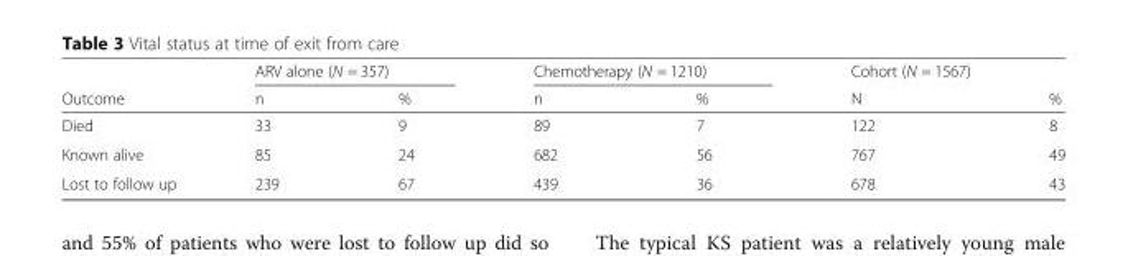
<table><thead><tr><td rowspan="2">Outcome</td><td colspan="2">ARV alone (N = 357)</td><td colspan="2">Chemotherapy (N = 1210)</td><td rowspan="2">Cohort (N = 1567) N</td><td rowspan="2">%</td></tr><tr><td>n</td><td>%</td><td>n</td><td>%</td></tr></thead><tbody><tr><td>Died</td><td>33</td><td>9</td><td>89</td><td>7</td><td>122</td><td>8</td></tr><tr><td>Known alive</td><td>85</td><td>24</td><td>682</td><td>56</td><td>767</td><td>49</td></tr><tr><td>Lost to follow up</td><td>239</td><td>67</td><td>439</td><td>36</td><td>678</td><td>43</td></tr></tbody></table>